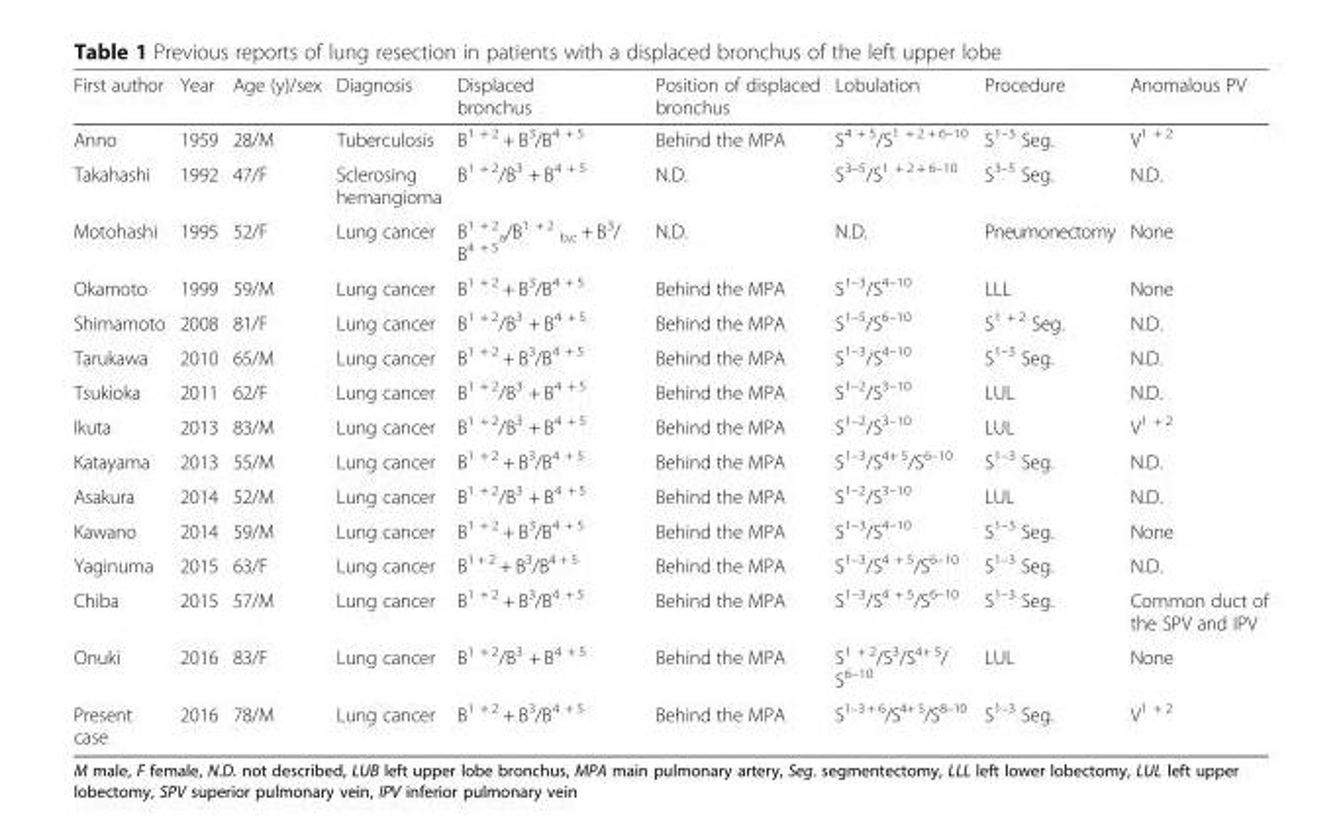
<table><thead><tr><td>First author</td><td>Year</td><td>Age (y)/sex</td><td>Diagnosis</td><td>Displaced bronchus</td><td>Position of displaced bronchus</td><td>Lobulation</td><td>Procedure</td><td>Anomalous PV</td></tr></thead><tbody><tr><td>Anno</td><td>1959</td><td>28/M</td><td>Tuberculosis</td><td>B<sup>1 + 2</sup> + B<sup>3</sup>/B<sup>4 + 5</sup></td><td>Behind the MPA</td><td>S<sup>4 + 5</sup>/S<sup>1 + 2 + 6–10</sup></td><td>S<sup>1–3</sup> Seg.</td><td>V<sup>1 + 2</sup></td></tr><tr><td>Takahashi</td><td>1992</td><td>47/F</td><td>Sclerosing hemangioma</td><td>B<sup>1 + 2</sup>/B<sup>3</sup> + B<sup>4 + 5</sup></td><td>N.D.</td><td>S<sup>3–5</sup>/S<sup>1 + 2 + 6–10</sup></td><td>S<sup>3–5</sup> Seg.</td><td>N.D.</td></tr><tr><td>Motohashi</td><td>1995</td><td>52/F</td><td>Lung cancer</td><td>B<sup>1 + 2</sup> <sub>a</sub>/B<sup>1 + 2</sup> <sub>b,c</sub> + B<sup>3</sup>/ B<sup>4 + 5</sup></td><td>N.D.</td><td>N.D.</td><td>Pneumonectomy</td><td>None</td></tr><tr><td>Okamoto</td><td>1999</td><td>59/M</td><td>Lung cancer</td><td>B<sup>1 + 2</sup> + B<sup>3</sup>/B<sup>4 + 5</sup></td><td>Behind the MPA</td><td>S<sup>1–3</sup>/S<sup>4–10</sup></td><td>LLL</td><td>None</td></tr><tr><td>Shimamoto</td><td>2008</td><td>81/F</td><td>Lung cancer</td><td>B<sup>1 + 2</sup>/B<sup>3</sup> + B<sup>4 + 5</sup></td><td>Behind the MPA</td><td>S<sup>1–5</sup>/S<sup>6–10</sup></td><td>S<sup>1 + 2</sup> Seg.</td><td>N.D.</td></tr><tr><td>Tarukawa</td><td>2010</td><td>65/M</td><td>Lung cancer</td><td>B<sup>1 + 2</sup> + B<sup>3</sup>/B<sup>4 + 5</sup></td><td>Behind the MPA</td><td>S<sup>1–3</sup>/S<sup>4–10</sup></td><td>S<sup>1–3</sup> Seg.</td><td>N.D.</td></tr><tr><td>Tsukioka</td><td>2011</td><td>62/F</td><td>Lung cancer</td><td>B<sup>1 + 2</sup>/B<sup>3</sup> + B<sup>4 + 5</sup></td><td>Behind the MPA</td><td>S<sup>1–2</sup>/S<sup>3–10</sup></td><td>LUL</td><td>N.D.</td></tr><tr><td>Ikuta</td><td>2013</td><td>83/M</td><td>Lung cancer</td><td>B<sup>1 + 2</sup>/B<sup>3</sup> + B<sup>4 + 5</sup></td><td>Behind the MPA</td><td>S<sup>1–2</sup>/S<sup>3–10</sup></td><td>LUL</td><td>V<sup>1 + 2</sup></td></tr><tr><td>Katayama</td><td>2013</td><td>55/M</td><td>Lung cancer</td><td>B<sup>1 + 2</sup> + B<sup>3</sup>/B<sup>4 + 5</sup></td><td>Behind the MPA</td><td>S<sup>1–3</sup>/S<sup>4+ 5</sup>/S<sup>6–10</sup></td><td>S<sup>1–3</sup> Seg.</td><td>N.D.</td></tr><tr><td>Asakura</td><td>2014</td><td>52/M</td><td>Lung cancer</td><td>B<sup>1 + 2</sup>/B<sup>3</sup> + B<sup>4 + 5</sup></td><td>Behind the MPA</td><td>S<sup>1–2</sup>/S<sup>3–10</sup></td><td>LUL</td><td>N.D.</td></tr><tr><td>Kawano</td><td>2014</td><td>59/M</td><td>Lung cancer</td><td>B<sup>1 + 2</sup> + B<sup>3</sup>/B<sup>4 + 5</sup></td><td>Behind the MPA</td><td>S<sup>1–3</sup>/S<sup>4–10</sup></td><td>S<sup>1–3</sup> Seg.</td><td>None</td></tr><tr><td>Yaginuma</td><td>2015</td><td>63/F</td><td>Lung cancer</td><td>B<sup>1 + 2</sup> + B<sup>3</sup>/B<sup>4 + 5</sup></td><td>Behind the MPA</td><td>S<sup>1–3</sup>/S<sup>4 + 5</sup>/S<sup>6–10</sup></td><td>S<sup>1–3</sup> Seg.</td><td>N.D.</td></tr><tr><td>Chiba</td><td>2015</td><td>57/M</td><td>Lung cancer</td><td>B<sup>1 + 2</sup> + B<sup>3</sup>/B<sup>4 + 5</sup></td><td>Behind the MPA</td><td>S<sup>1–3</sup>/S<sup>4 + 5</sup>/S<sup>6–10</sup></td><td>S<sup>1–3</sup> Seg.</td><td>Common duct of the SPV and IPV</td></tr><tr><td>Onuki</td><td>2016</td><td>83/F</td><td>Lung cancer</td><td>B<sup>1 + 2</sup>/B<sup>3</sup> + B<sup>4 + 5</sup></td><td>Behind the MPA</td><td>S<sup>1 + 2</sup>/S<sup>3</sup>/S<sup>4+ 5</sup>/ S<sup>6–10</sup></td><td>LUL</td><td>None</td></tr><tr><td>Present case</td><td>2016</td><td>78/M</td><td>Lung cancer</td><td>B<sup>1 + 2</sup> + B<sup>3</sup>/B<sup>4 + 5</sup></td><td>Behind the MPA</td><td>S<sup>1–3 + 6</sup>/S<sup>4+ 5</sup>/S<sup>8–10</sup></td><td>S<sup>1–3</sup> Seg.</td><td>V<sup>1 + 2</sup></td></tr></tbody></table>